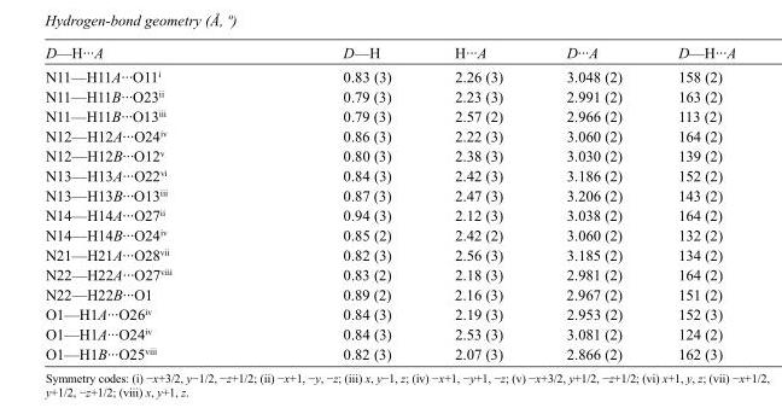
<table><tbody><tr><td>D—H···A</td><td>D—H</td><td>H···A</td><td>D···A</td><td>D—H···A</td></tr><tr><td>N11—H11A···O11<sup>i</sup></td><td>0.83 (3)</td><td>2.26 (3)</td><td>3.048 (2)</td><td>158 (2)</td></tr><tr><td>N11—H11B···O23<sup>ii</sup></td><td>0.79 (3)</td><td>2.23 (3)</td><td>2.991 (2)</td><td>163 (2)</td></tr><tr><td>N11—H11B···O13<sup>iii</sup></td><td>0.79 (3)</td><td>2.57 (2)</td><td>2.966 (2)</td><td>113 (2)</td></tr><tr><td>N12—H12A···O24<sup>iv</sup></td><td>0.86 (3)</td><td>2.22 (3)</td><td>3.060 (2)</td><td>164 (2)</td></tr><tr><td>N12—H12B···O12<sup>v</sup></td><td>0.80 (3)</td><td>2.38 (3)</td><td>3.030 (2)</td><td>139 (2)</td></tr><tr><td>N13—H13A···O22<sup>vi</sup></td><td>0.84 (3)</td><td>2.42 (3)</td><td>3.186 (2)</td><td>152 (2)</td></tr><tr><td>N13—H13B···O13<sup>iii</sup></td><td>0.87 (3)</td><td>2.47 (3)</td><td>3.206 (2)</td><td>143 (2)</td></tr><tr><td>N14—H14A···O27<sup>ii</sup></td><td>0.94 (3)</td><td>2.12 (3)</td><td>3.038 (2)</td><td>164 (2)</td></tr><tr><td>N14—H14B···O24<sup>iv</sup></td><td>0.85 (2)</td><td>2.42 (2)</td><td>3.060 (2)</td><td>132 (2)</td></tr><tr><td>N21—H21A···O28<sup>vii</sup></td><td>0.82 (3)</td><td>2.56 (3)</td><td>3.185 (2)</td><td>134 (2)</td></tr><tr><td>N22—H22A···O27<sup>viii</sup></td><td>0.83 (2)</td><td>2.18 (3)</td><td>2.981 (2)</td><td>164 (2)</td></tr><tr><td>N22—H22B···O1</td><td>0.89 (2)</td><td>2.16 (3)</td><td>2.967 (2)</td><td>151 (2)</td></tr><tr><td>O1—H1A···O26<sup>iv</sup></td><td>0.84 (3)</td><td>2.19 (3)</td><td>2.953 (2)</td><td>152 (3)</td></tr><tr><td>O1—H1A···O24<sup>iv</sup></td><td>0.84 (3)</td><td>2.53 (3)</td><td>3.081 (2)</td><td>124 (2)</td></tr><tr><td>O1—H1B···O25<sup>viii</sup></td><td>0.82 (3)</td><td>2.07 (3)</td><td>2.866 (2)</td><td>162 (3)</td></tr></tbody></table>